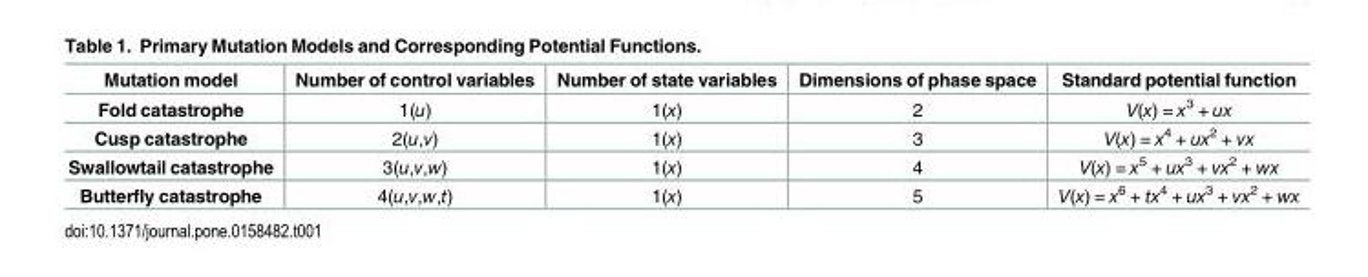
<table><thead><tr><td>Mutation model</td><td>Number of control variables</td><td>Number of state variables</td><td>Dimensions of phase space</td><td>Standard potential function</td></tr></thead><tbody><tr><td>Fold catastrophe</td><td>1(u)</td><td>1(x)</td><td>2</td><td>V(x) = x<sup>3</sup> + ux</td></tr><tr><td>Cusp catastrophe</td><td>2(u,v)</td><td>1(x)</td><td>3</td><td>V(x) = x<sup>4</sup> + ux<sup>2</sup> + vx</td></tr><tr><td>Swallowtail catastrophe</td><td>3(u,v,w)</td><td>1(x)</td><td>4</td><td>V(x) = x<sup>5</sup> + ux<sup>3</sup> + vx<sup>2</sup> + wx</td></tr><tr><td>Butterfly catastrophe</td><td>4(u,v,w,t)</td><td>1(x)</td><td>5</td><td>V(x) = x<sup>6</sup> + tx<sup>4</sup> + ux<sup>3</sup> + vx<sup>2</sup> + wx</td></tr></tbody></table>